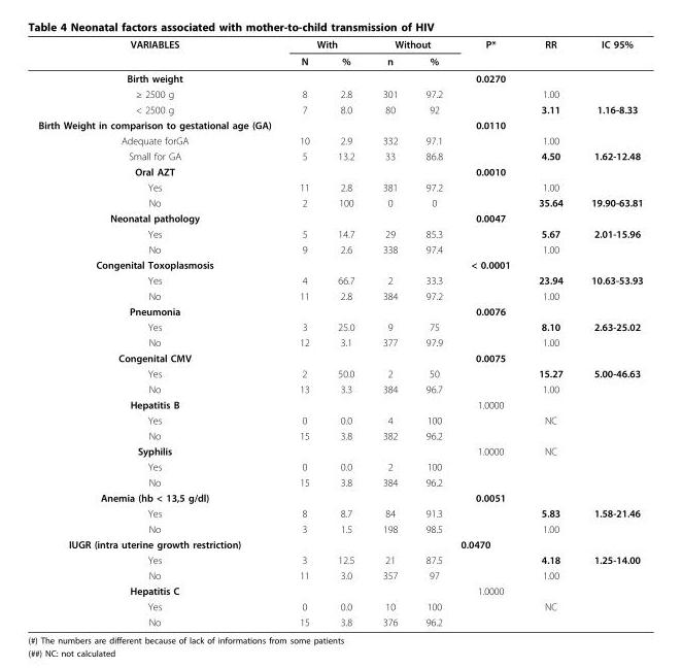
<table><thead><tr><td rowspan="2">VARIABLES</td><td colspan="2">With</td><td colspan="2">Without</td><td rowspan="2">P*</td><td rowspan="2">RR</td><td rowspan="2">IC 95%</td></tr><tr><td>N</td><td>%</td><td>n</td><td>%</td></tr></thead><tbody><tr><td>Birth weight</td><td></td><td></td><td></td><td></td><td>0.0270</td><td></td><td></td></tr><tr><td>≥ 2500 g</td><td>8</td><td>2.8</td><td>301</td><td>97.2</td><td></td><td>1.00</td><td></td></tr><tr><td>&lt; 2500 g</td><td>7</td><td>8.0</td><td>80</td><td>92</td><td></td><td>3.11</td><td>1.16-8.33</td></tr><tr><td>Birth Weight in comparison to gestational age (GA)</td><td></td><td></td><td></td><td></td><td>0.0110</td><td></td><td></td></tr><tr><td>Adequate forGA</td><td>10</td><td>2.9</td><td>332</td><td>97.1</td><td></td><td>1.00</td><td></td></tr><tr><td>Small for GA</td><td>5</td><td>13.2</td><td>33</td><td>86.8</td><td></td><td>4.50</td><td>1.62-12.48</td></tr><tr><td>Oral AZT</td><td></td><td></td><td></td><td></td><td>0.0010</td><td></td><td></td></tr><tr><td>Yes</td><td>11</td><td>2.8</td><td>381</td><td>97.2</td><td></td><td>1.00</td><td></td></tr><tr><td>No</td><td>2</td><td>100</td><td>0</td><td>0</td><td></td><td>35.64</td><td>19.90-63.81</td></tr><tr><td>Neonatal pathology</td><td></td><td></td><td></td><td></td><td>0.0047</td><td></td><td></td></tr><tr><td>Yes</td><td>5</td><td>14.7</td><td>29</td><td>85.3</td><td></td><td>5.67</td><td>2.01-15.96</td></tr><tr><td>No</td><td>9</td><td>2.6</td><td>338</td><td>97.4</td><td></td><td>1.00</td><td></td></tr><tr><td>Congenital Toxoplasmosis</td><td></td><td></td><td></td><td></td><td>&lt; 0.0001</td><td></td><td></td></tr><tr><td>Yes</td><td>4</td><td>66.7</td><td>2</td><td>33.3</td><td></td><td>23.94</td><td>10.63-53.93</td></tr><tr><td>No</td><td>11</td><td>2.8</td><td>384</td><td>97.2</td><td></td><td>1.00</td><td></td></tr><tr><td>Pneumonia</td><td></td><td></td><td></td><td></td><td>0.0076</td><td></td><td></td></tr><tr><td>Yes</td><td>3</td><td>25.0</td><td>9</td><td>75</td><td></td><td>8.10</td><td>2.63-25.02</td></tr><tr><td>No</td><td>12</td><td>3.1</td><td>377</td><td>97.9</td><td></td><td>1.00</td><td></td></tr><tr><td>Congenital CMV</td><td></td><td></td><td></td><td></td><td>0.0075</td><td></td><td></td></tr><tr><td>Yes</td><td>2</td><td>50.0</td><td>2</td><td>50</td><td></td><td>15.27</td><td>5.00-46.63</td></tr><tr><td>No</td><td>13</td><td>3.3</td><td>384</td><td>96.7</td><td></td><td>1.00</td><td></td></tr><tr><td>Hepatitis B</td><td></td><td></td><td></td><td></td><td>1.0000</td><td></td><td></td></tr><tr><td>Yes</td><td>0</td><td>0.0</td><td>4</td><td>100</td><td></td><td>NC</td><td></td></tr><tr><td>No</td><td>15</td><td>3.8</td><td>382</td><td>96.2</td><td></td><td></td><td></td></tr><tr><td>Syphilis</td><td></td><td></td><td></td><td></td><td>1.0000</td><td>NC</td><td></td></tr><tr><td>Yes</td><td>0</td><td>0.0</td><td>2</td><td>100</td><td></td><td></td><td></td></tr><tr><td>No</td><td>15</td><td>3.8</td><td>384</td><td>96.2</td><td></td><td></td><td></td></tr><tr><td>Anemia (hb &lt; 13,5 g/dl)</td><td></td><td></td><td></td><td></td><td>0.0051</td><td></td><td></td></tr><tr><td>Yes</td><td>8</td><td>8.7</td><td>84</td><td>91.3</td><td></td><td>5.83</td><td>1.58-21.46</td></tr><tr><td>No</td><td>3</td><td>1.5</td><td>198</td><td>98.5</td><td></td><td>1.00</td><td></td></tr><tr><td>IUGR (intra uterine growth restriction)</td><td></td><td></td><td></td><td></td><td>0.0470</td><td></td><td></td></tr><tr><td>Yes</td><td>3</td><td>12.5</td><td>21</td><td>87.5</td><td></td><td>4.18</td><td>1.25-14.00</td></tr><tr><td>No</td><td>11</td><td>3.0</td><td>357</td><td>97</td><td></td><td>1.00</td><td></td></tr><tr><td>Hepatitis C</td><td></td><td></td><td></td><td></td><td>1.0000</td><td></td><td></td></tr><tr><td>Yes</td><td>0</td><td>0.0</td><td>10</td><td>100</td><td></td><td>NC</td><td></td></tr><tr><td>No</td><td>15</td><td>3.8</td><td>376</td><td>96.2</td><td></td><td></td><td></td></tr></tbody></table>